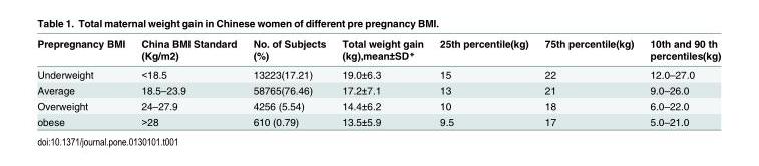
<table><thead><tr><td>Prepregnancy BMI</td><td>China BMI Standard (Kg/m2)</td><td>No. of Subjects (%)</td><td>Total weight gain (kg),mean±SD*</td><td>25th percentile(kg)</td><td>75th percentile(kg)</td><td>10th and 90 th percentiles(kg)</td></tr></thead><tbody><tr><td>Underweight</td><td>&lt;18.5</td><td>13223(17.21)</td><td>19.0±6.3</td><td>15</td><td>22</td><td>12.0–27.0</td></tr><tr><td>Average</td><td>18.5–23.9</td><td>58765(76.46)</td><td>17.2±7.1</td><td>13</td><td>21</td><td>9.0–26.0</td></tr><tr><td>Overweight</td><td>24–27.9</td><td>4256 (5.54)</td><td>14.4±6.2</td><td>10</td><td>18</td><td>6.0–22.0</td></tr><tr><td>obese</td><td>&gt;28</td><td>610 (0.79)</td><td>13.5±5.9</td><td>9.5</td><td>17</td><td>5.0–21.0</td></tr></tbody></table>